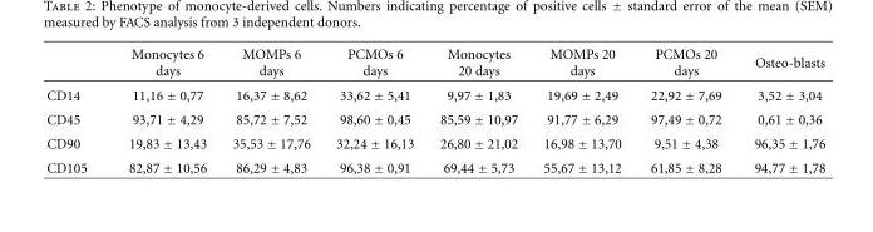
<table><thead><tr><td></td><td>Monocytes 6 days</td><td>MOMPs 6 days</td><td>PCMOs 6 days</td><td>Monocytes 20 days</td><td>MOMPs 20 days</td><td>PCMOs 20 days</td><td>Osteo-blasts</td></tr></thead><tbody><tr><td>CD14</td><td>11,16 ± 0,77</td><td>16,37 ± 8,62</td><td>33,62 ± 5,41</td><td>9,97 ± 1,83</td><td>19,69 ± 2,49</td><td>22,92 ± 7,69</td><td>3,52 ± 3,04</td></tr><tr><td>CD45</td><td>93,71 ± 4,29</td><td>85,72 ± 7,52</td><td>98,60 ± 0,45</td><td>85,59 ± 10,97</td><td>91,77 ± 6,29</td><td>97,49 ± 0,72</td><td>0,61 ± 0,36</td></tr><tr><td>CD90</td><td>19,83 ± 13,43</td><td>35,53 ± 17,76</td><td>32,24 ± 16,13</td><td>26,80 ± 21,02</td><td>16,98 ± 13,70</td><td>9,51 ± 4,38</td><td>96,35 ± 1,76</td></tr><tr><td>CD105</td><td>82,87 ± 10,56</td><td>86,29 ± 4,83</td><td>96,38 ± 0,91</td><td>69,44 ± 5,73</td><td>55,67 ± 13,12</td><td>61,85 ± 8,28</td><td>94,77 ± 1,78</td></tr></tbody></table>